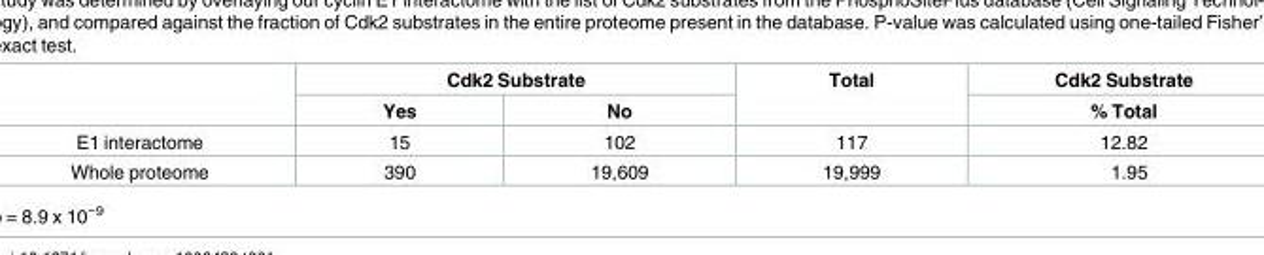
<table><thead><tr><td rowspan="2"></td><td colspan="2">Cdk2 Substrate</td><td rowspan="2">Total</td><td rowspan="2">Cdk2 Substrate % Total</td></tr><tr><td>Yes</td><td>No</td></tr></thead><tbody><tr><td>E1 interactome</td><td>15</td><td>102</td><td>117</td><td>12.82</td></tr><tr><td>Whole proteome</td><td>390</td><td>19,609</td><td>19,999</td><td>1.95</td></tr></tbody></table>